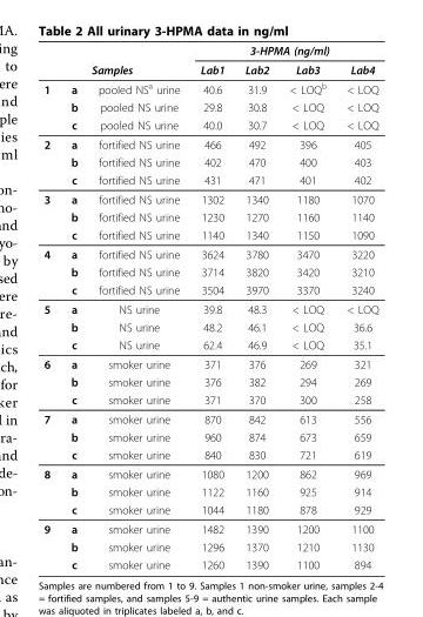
<table><thead><tr><td></td><td></td><td></td><td colspan="4">3-HPMA (ng/ml)</td></tr><tr><td colspan="3">Samples</td><td>Lab1</td><td>Lab2</td><td>Lab3</td><td>Lab4</td></tr></thead><tbody><tr><td rowspan="3">1</td><td>a</td><td>pooled NS<sup>a</sup> urine</td><td>40.6</td><td>31.9</td><td>&lt; LOQ<sup>b</sup></td><td>&lt; LOQ</td></tr><tr><td>b</td><td>pooled NS urine</td><td>29.8</td><td>30.8</td><td>&lt; LOQ</td><td>&lt; LOQ</td></tr><tr><td>c</td><td>pooled NS urine</td><td>40.0</td><td>30.7</td><td>&lt; LOQ</td><td>&lt; LOQ</td></tr><tr><td rowspan="3">2</td><td>a</td><td>fortified NS urine</td><td>466</td><td>492</td><td>396</td><td>405</td></tr><tr><td>b</td><td>fortified NS urine</td><td>402</td><td>470</td><td>400</td><td>403</td></tr><tr><td>c</td><td>fortified NS urine</td><td>431</td><td>471</td><td>401</td><td>402</td></tr><tr><td rowspan="3">3</td><td>a</td><td>fortified NS urine</td><td>1302</td><td>1340</td><td>1180</td><td>1070</td></tr><tr><td>b</td><td>fortified NS urine</td><td>1230</td><td>1270</td><td>1160</td><td>1140</td></tr><tr><td>c</td><td>fortified NS urine</td><td>1140</td><td>1340</td><td>1150</td><td>1090</td></tr><tr><td rowspan="3">4</td><td>a</td><td>fortified NS urine</td><td>3624</td><td>3780</td><td>3470</td><td>3220</td></tr><tr><td>b</td><td>fortified NS urine</td><td>3714</td><td>3820</td><td>3420</td><td>3210</td></tr><tr><td>c</td><td>fortified NS urine</td><td>3504</td><td>3970</td><td>3370</td><td>3240</td></tr><tr><td rowspan="3">5</td><td>a</td><td>NS urine</td><td>39.8</td><td>48.3</td><td>&lt; LOQ</td><td>&lt; LOQ</td></tr><tr><td>b</td><td>NS urine</td><td>48.2</td><td>46.1</td><td>&lt; LOQ</td><td>36.6</td></tr><tr><td>c</td><td>NS urine</td><td>62.4</td><td>46.9</td><td>&lt; LOQ</td><td>35.1</td></tr><tr><td rowspan="3">6</td><td>a</td><td>smoker urine</td><td>371</td><td>376</td><td>269</td><td>321</td></tr><tr><td>b</td><td>smoker urine</td><td>376</td><td>382</td><td>294</td><td>269</td></tr><tr><td>c</td><td>smoker urine</td><td>371</td><td>370</td><td>300</td><td>258</td></tr><tr><td rowspan="3">7</td><td>a</td><td>smoker urine</td><td>870</td><td>842</td><td>613</td><td>556</td></tr><tr><td>b</td><td>smoker urine</td><td>960</td><td>874</td><td>673</td><td>659</td></tr><tr><td>c</td><td>smoker urine</td><td>840</td><td>830</td><td>721</td><td>619</td></tr><tr><td rowspan="3">8</td><td>a</td><td>smoker urine</td><td>1080</td><td>1200</td><td>862</td><td>969</td></tr><tr><td>b</td><td>smoker urine</td><td>1122</td><td>1160</td><td>925</td><td>914</td></tr><tr><td>c</td><td>smoker urine</td><td>1044</td><td>1180</td><td>878</td><td>929</td></tr><tr><td rowspan="3">9</td><td>a</td><td>smoker urine</td><td>1482</td><td>1390</td><td>1200</td><td>1100</td></tr><tr><td>b</td><td>smoker urine</td><td>1296</td><td>1370</td><td>1210</td><td>1130</td></tr><tr><td>c</td><td>smoker urine</td><td>1260</td><td>1390</td><td>1100</td><td>894</td></tr></tbody></table>